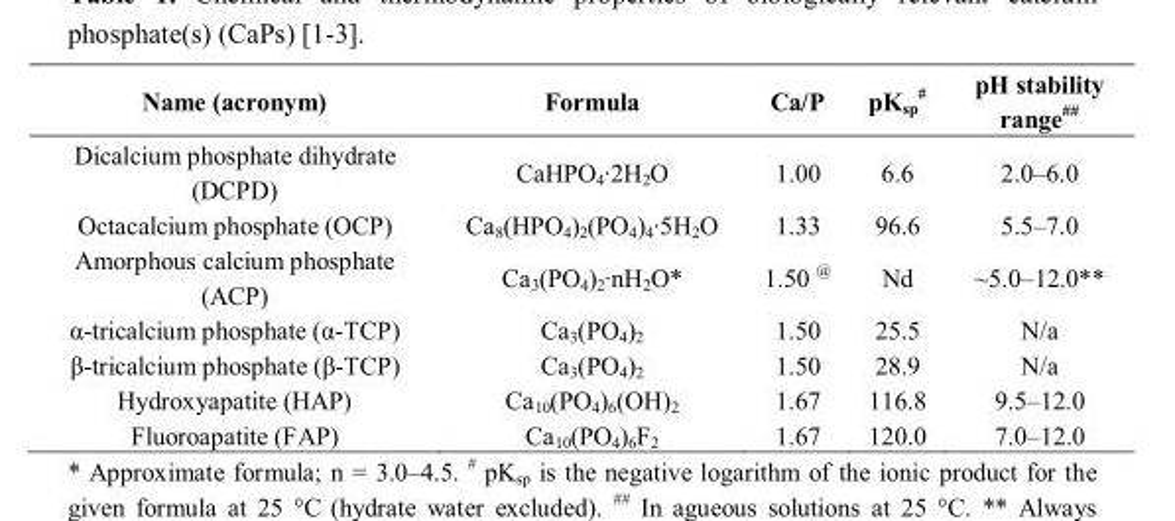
<table><thead><tr><td>Name (acronym)</td><td>Formula</td><td>Ca/P</td><td>pK<sub>sp</sub> #</td><td>pH stability range##</td></tr></thead><tbody><tr><td>Dicalcium phosphate dihydrate (DCPD)</td><td>CaHPO<sub>4</sub>·2H<sub>2</sub>O</td><td>1.00</td><td>6.6</td><td>2.0–6.0</td></tr><tr><td>Octacalcium phosphate (OCP)</td><td>Ca<sub>8</sub>(HPO<sub>4</sub>)<sub>2</sub>(PO<sub>4</sub>)<sub>4</sub>·5H<sub>2</sub>O</td><td>1.33</td><td>96.6</td><td>5.5–7.0</td></tr><tr><td>Amorphous calcium phosphate (ACP)</td><td>Ca<sub>3</sub>(PO<sub>4</sub>)<sub>2</sub>·nH<sub>2</sub>O*</td><td>1.50 @</td><td>Nd</td><td>~5.0–12.0**</td></tr><tr><td>α-tricalcium phosphate (α-TCP)</td><td>Ca<sub>3</sub>(PO<sub>4</sub>)<sub>2</sub></td><td>1.50</td><td>25.5</td><td>N/a</td></tr><tr><td>β-tricalcium phosphate (β-TCP)</td><td>Ca<sub>3</sub>(PO<sub>4</sub>)<sub>2</sub></td><td>1.50</td><td>28.9</td><td>N/a</td></tr><tr><td>Hydroxyapatite (HAP)</td><td>Ca<sub>10</sub>(PO<sub>4</sub>)<sub>6</sub>(OH)<sub>2</sub></td><td>1.67</td><td>116.8</td><td>9.5–12.0</td></tr><tr><td>Fluoroapatite (FAP)</td><td>Ca<sub>10</sub>(PO<sub>4</sub>)<sub>6</sub>F<sub>2</sub></td><td>1.67</td><td>120.0</td><td>7.0–12.0</td></tr></tbody></table>